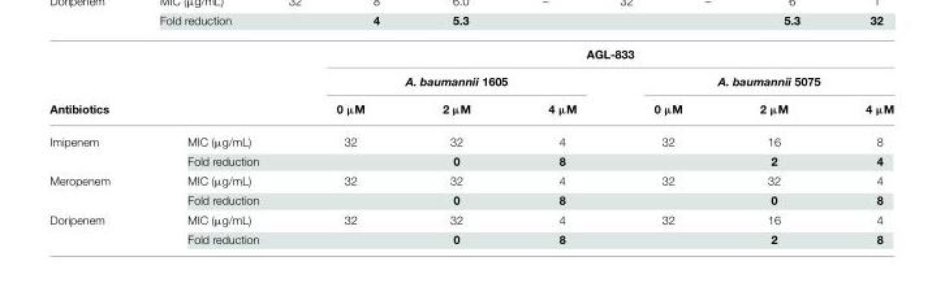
<table><thead><tr><td rowspan="3">Antibiotics</td><td rowspan="3"></td><td colspan="6">AGL-833</td></tr><tr><td colspan="3">A. baumannii 1605</td><td colspan="3">A. baumannii 5075</td></tr><tr><td>0 µM</td><td>2 µM</td><td>4 µM</td><td>0 µM</td><td>2 µM</td><td>4 µM</td></tr></thead><tbody><tr><td rowspan="2">Imipenem</td><td>MIC (µg/mL)</td><td>32</td><td>32</td><td>4</td><td>32</td><td>16</td><td>8</td></tr><tr><td>Fold reduction</td><td></td><td>0</td><td>8</td><td></td><td>2</td><td>4</td></tr><tr><td rowspan="2">Meropenem</td><td>MIC (µg/mL)</td><td>32</td><td>32</td><td>4</td><td>32</td><td>32</td><td>4</td></tr><tr><td>Fold reduction</td><td></td><td>0</td><td>8</td><td></td><td>0</td><td>8</td></tr><tr><td rowspan="2">Doripenem</td><td>MIC (µg/mL)</td><td>32</td><td>32</td><td>4</td><td>32</td><td>16</td><td>4</td></tr><tr><td>Fold reduction</td><td></td><td>0</td><td>8</td><td></td><td>2</td><td>8</td></tr></tbody></table>